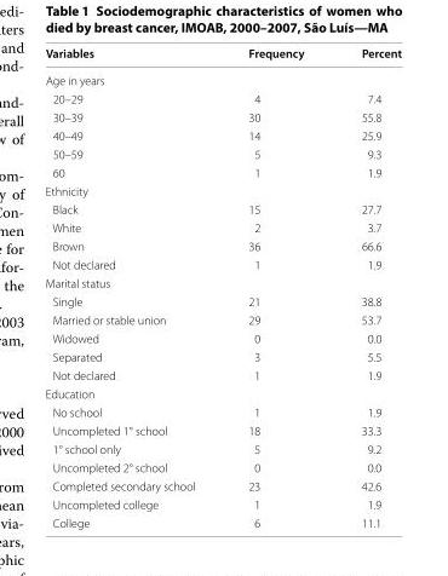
<table><thead><tr><td>Variables</td><td>Frequency</td><td>Percent</td></tr></thead><tbody><tr><td colspan="3">Age in years</td></tr><tr><td>20–29</td><td>4</td><td>7.4</td></tr><tr><td>30–39</td><td>30</td><td>55.8</td></tr><tr><td>40–49</td><td>14</td><td>25.9</td></tr><tr><td>50–59</td><td>5</td><td>9.3</td></tr><tr><td>60</td><td>1</td><td>1.9</td></tr><tr><td colspan="3">Ethnicity</td></tr><tr><td>Black</td><td>15</td><td>27.7</td></tr><tr><td>White</td><td>2</td><td>3.7</td></tr><tr><td>Brown</td><td>36</td><td>66.6</td></tr><tr><td>Not declared</td><td>1</td><td>1.9</td></tr><tr><td colspan="3">Marital status</td></tr><tr><td>Single</td><td>21</td><td>38.8</td></tr><tr><td>Married or stable union</td><td>29</td><td>53.7</td></tr><tr><td>Widowed</td><td>0</td><td>0.0</td></tr><tr><td>Separated</td><td>3</td><td>5.5</td></tr><tr><td>Not declared</td><td>1</td><td>1.9</td></tr><tr><td colspan="3">Education</td></tr><tr><td>No school</td><td>1</td><td>1.9</td></tr><tr><td>Uncompleted 1° school</td><td>18</td><td>33.3</td></tr><tr><td>1° school only</td><td>5</td><td>9.2</td></tr><tr><td>Uncompleted 2° school</td><td>0</td><td>0.0</td></tr><tr><td>Completed secondary school</td><td>23</td><td>42.6</td></tr><tr><td>Uncompleted college</td><td>1</td><td>1.9</td></tr><tr><td>College</td><td>6</td><td>11.1</td></tr></tbody></table>